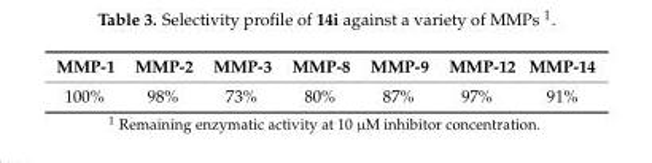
<table><thead><tr><td>MMP-1</td><td>MMP-2</td><td>MMP-3</td><td>MMP-8</td><td>MMP-9</td><td>MMP-12</td><td>MMP-14</td></tr></thead><tbody><tr><td>100%</td><td>98%</td><td>73%</td><td>80%</td><td>87%</td><td>97%</td><td>91%</td></tr></tbody></table>